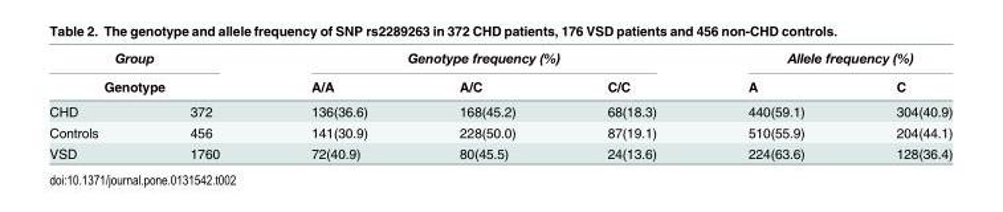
<table><thead><tr><td rowspan="2" colspan="2">Group Genotype</td><td colspan="3">Genotype frequency (%)</td><td colspan="2">Allele frequency (%)</td></tr><tr><td rowspan="2">A/A 136(36.6)</td><td rowspan="2">A/C 168(45.2)</td><td rowspan="2">C/C 68(18.3)</td><td rowspan="2">A 440(59.1)</td><td rowspan="2">C 304(40.9)</td></tr><tr><td>CHD</td><td>372</td></tr></thead><tbody><tr><td>Controls</td><td>456</td><td>141(30.9)</td><td>228(50.0)</td><td>87(19.1)</td><td>510(55.9)</td><td>204(44.1)</td></tr><tr><td>VSD</td><td>1760</td><td>72(40.9)</td><td>80(45.5)</td><td>24(13.6)</td><td>224(63.6)</td><td>128(36.4)</td></tr></tbody></table>